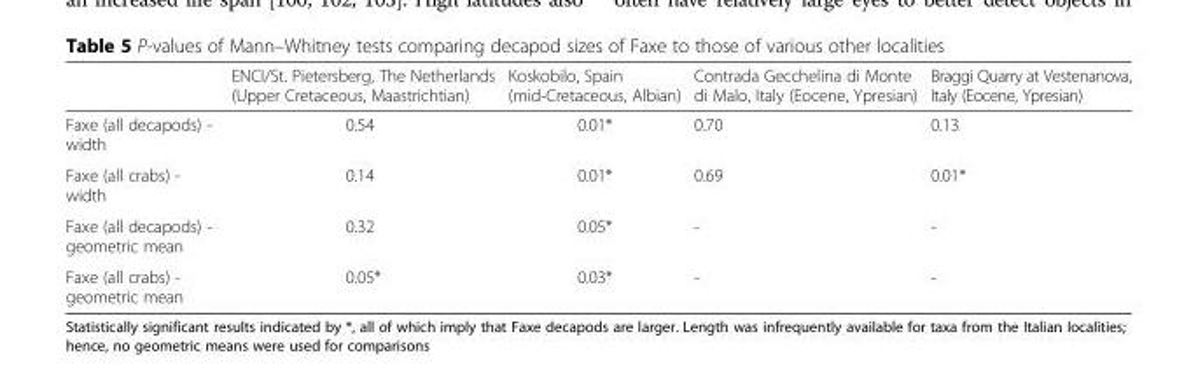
<table><thead><tr><td></td><td>ENCI/St. Pietersberg, The Netherlands (Upper Cretaceous, Maastrichtian)</td><td>Koskobilo, Spain (mid-Cretaceous, Albian)</td><td>Contrada Gecchelina di Monte di Malo, Italy (Eocene, Ypresian)</td><td>Braggi Quarry at Vestenanova, Italy (Eocene, Ypresian)</td></tr></thead><tbody><tr><td>Faxe (all decapods) - width</td><td>0.54</td><td>0.01*</td><td>0.70</td><td>0.13</td></tr><tr><td>Faxe (all crabs) - width</td><td>0.14</td><td>0.01*</td><td>0.69</td><td>0.01*</td></tr><tr><td>Faxe (all decapods) - geometric mean</td><td>0.32</td><td>0.05*</td><td>-</td><td>-</td></tr><tr><td>Faxe (all crabs) - geometric mean</td><td>0.05*</td><td>0.03*</td><td>-</td><td>-</td></tr></tbody></table>